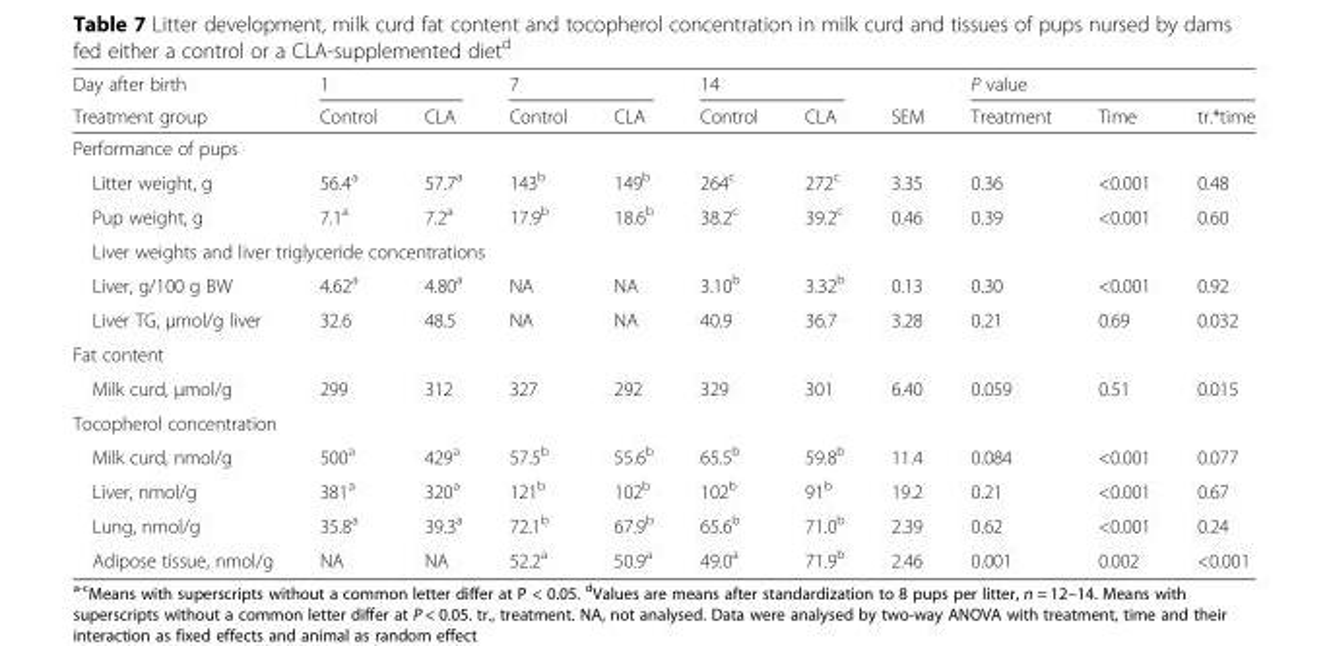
<table><thead><tr><td rowspan="2">Day after birth Treatment group</td><td colspan="2">1</td><td colspan="2">7</td><td colspan="2">14</td><td rowspan="2">SEM</td><td colspan="3">P value</td></tr><tr><td>Control</td><td>CLA</td><td>Control</td><td>CLA</td><td>Control</td><td>CLA</td><td>Treatment</td><td>Time</td><td>tr.*time</td></tr></thead><tbody><tr><td colspan="11">Performance of pups</td></tr><tr><td>Litter weight, g</td><td>56.4<sup>a</sup></td><td>57.7<sup>a</sup></td><td>143<sup>b</sup></td><td>149<sup>b</sup></td><td>264<sup>c</sup></td><td>272<sup>c</sup></td><td>3.35</td><td>0.36</td><td>&lt;0.001</td><td>0.48</td></tr><tr><td>Pup weight, g</td><td>7.1<sup>a</sup></td><td>7.2<sup>a</sup></td><td>17.9<sup>b</sup></td><td>18.6<sup>b</sup></td><td>38.2<sup>c</sup></td><td>39.2<sup>c</sup></td><td>0.46</td><td>0.39</td><td>&lt;0.001</td><td>0.60</td></tr><tr><td colspan="11">Liver weights and liver triglyceride concentrations</td></tr><tr><td>Liver, g/100 g BW</td><td>4.62<sup>a</sup></td><td>4.80<sup>a</sup></td><td>NA</td><td>NA</td><td>3.10<sup>b</sup></td><td>3.32<sup>b</sup></td><td>0.13</td><td>0.30</td><td>&lt;0.001</td><td>0.92</td></tr><tr><td>Liver TG, μmol/g liver</td><td>32.6</td><td>48.5</td><td>NA</td><td>NA</td><td>40.9</td><td>36.7</td><td>3.28</td><td>0.21</td><td>0.69</td><td>0.032</td></tr><tr><td colspan="11">Fat content</td></tr><tr><td>Milk curd, μmol/g</td><td>299</td><td>312</td><td>327</td><td>292</td><td>329</td><td>301</td><td>6.40</td><td>0.059</td><td>0.51</td><td>0.015</td></tr><tr><td colspan="11">Tocopherol concentration</td></tr><tr><td>Milk curd, nmol/g</td><td>500<sup>a</sup></td><td>429<sup>a</sup></td><td>57.5<sup>b</sup></td><td>55.6<sup>b</sup></td><td>65.5<sup>b</sup></td><td>59.8<sup>b</sup></td><td>11.4</td><td>0.084</td><td>&lt;0.001</td><td>0.077</td></tr><tr><td>Liver, nmol/g</td><td>381<sup>a</sup></td><td>320<sup>a</sup></td><td>121<sup>b</sup></td><td>102<sup>b</sup></td><td>102<sup>b</sup></td><td>91<sup>b</sup></td><td>19.2</td><td>0.21</td><td>&lt;0.001</td><td>0.67</td></tr><tr><td>Lung, nmol/g</td><td>35.8<sup>a</sup></td><td>39.3<sup>a</sup></td><td>72.1<sup>b</sup></td><td>67.9<sup>b</sup></td><td>65.6<sup>b</sup></td><td>71.0<sup>b</sup></td><td>2.39</td><td>0.62</td><td>&lt;0.001</td><td>0.24</td></tr><tr><td>Adipose tissue, nmol/g</td><td>NA</td><td>NA</td><td>52.2<sup>a</sup></td><td>50.9<sup>a</sup></td><td>49.0<sup>a</sup></td><td>71.9<sup>b</sup></td><td>2.46</td><td>0.001</td><td>0.002</td><td>&lt;0.001</td></tr></tbody></table>